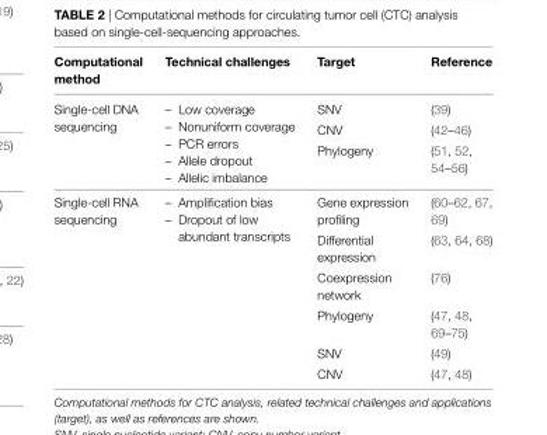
<table><thead><tr><td>Computational method</td><td>Technical challenges</td><td>Target</td><td>Reference</td></tr></thead><tbody><tr><td rowspan="3">Single-cell DNA sequencing</td><td rowspan="3">– Low coverage – Nonuniform coverage – PCR errors – Allele dropout – Allelic imbalance</td><td>SNV</td><td>(39)</td></tr><tr><td>CNV</td><td>(42–46)</td></tr><tr><td>Phylogeny</td><td>(51, 52, 54–56)</td></tr><tr><td rowspan="6">Single-cell RNA sequencing</td><td rowspan="6">– Amplification bias – Dropout of low abundant transcripts</td><td>Gene expression profiling</td><td>(60–62, 67, 69)</td></tr><tr><td>Differential expression</td><td>(63, 64, 68)</td></tr><tr><td>Coexpression network</td><td>(76)</td></tr><tr><td>Phylogeny</td><td>(47, 48, 69–75)</td></tr><tr><td>SNV</td><td>(49)</td></tr><tr><td>CNV</td><td>(47, 48)</td></tr></tbody></table>